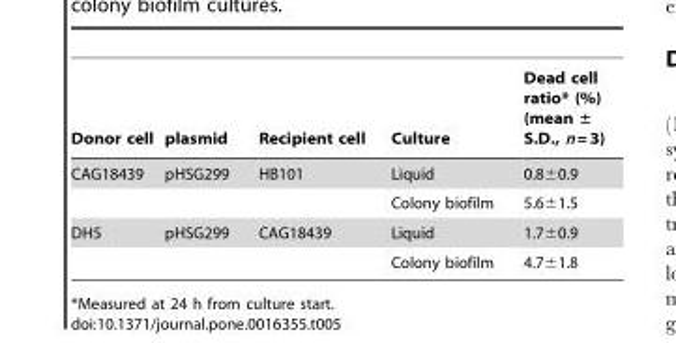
<table><thead><tr><td>Donor cell</td><td>plasmid</td><td>Recipient cell</td><td>Culture</td><td>Dead cell ratio* (%) (mean ± S.D., n = 3)</td></tr></thead><tbody><tr><td rowspan="2">CAG18439</td><td>pHSG299</td><td>HB101</td><td>Liquid</td><td>0.8±0.9</td></tr><tr><td></td><td></td><td>Colony biofilm</td><td>5.6±1.5</td></tr><tr><td rowspan="2">DH5</td><td>pHSG299</td><td>CAG18439</td><td>Liquid</td><td>1.7±0.9</td></tr><tr><td></td><td></td><td>Colony biofilm</td><td>4.7±1.8</td></tr></tbody></table>